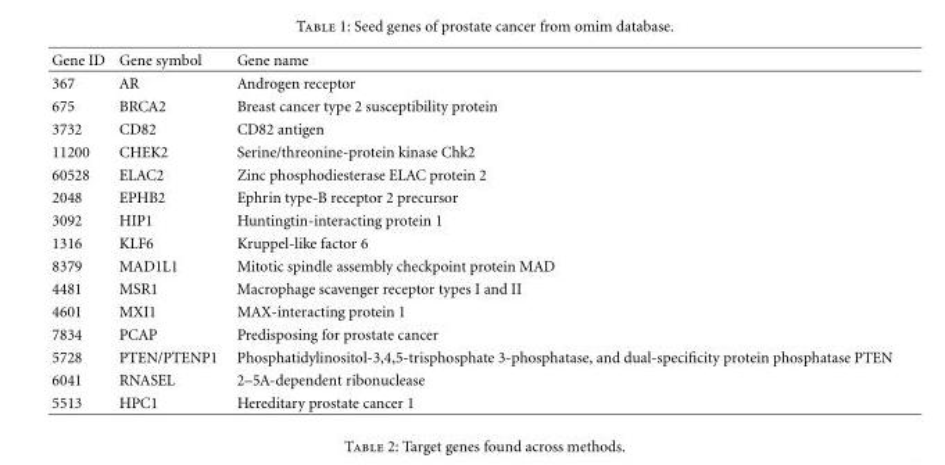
<table><thead><tr><td>Gene ID</td><td>Gene symbol</td><td>Gene name</td></tr></thead><tbody><tr><td>367</td><td>AR</td><td>Androgen receptor</td></tr><tr><td>675</td><td>BRCA2</td><td>Breast cancer type 2 susceptibility protein</td></tr><tr><td>3732</td><td>CD82</td><td>CD82 antigen</td></tr><tr><td>11200</td><td>CHEK2</td><td>Serine/threonine-protein kinase Chk2</td></tr><tr><td>60528</td><td>ELAC2</td><td>Zinc phosphodiesterase ELAC protein 2</td></tr><tr><td>2048</td><td>EPHB2</td><td>Ephrin type-B receptor 2 precursor</td></tr><tr><td>3092</td><td>HIP1</td><td>Huntingtin-interacting protein 1</td></tr><tr><td>1316</td><td>KLF6</td><td>Kruppel-like factor 6</td></tr><tr><td>8379</td><td>MAD1L1</td><td>Mitotic spindle assembly checkpoint protein MAD</td></tr><tr><td>4481</td><td>MSR1</td><td>Macrophage scavenger receptor types I and II</td></tr><tr><td>4601</td><td>MXI1</td><td>MAX-interacting protein 1</td></tr><tr><td>7834</td><td>PCAP</td><td>Predisposing for prostate cancer</td></tr><tr><td>5728</td><td>PTEN/PTENP1</td><td>Phosphatidylinositol-3,4,5-trisphosphate 3-phosphatase, and dual-specificity protein phosphatase PTEN</td></tr><tr><td>6041</td><td>RNASEL</td><td>2–5A-dependent ribonuclease</td></tr><tr><td>5513</td><td>HPC1</td><td>Hereditary prostate cancer 1</td></tr></tbody></table>